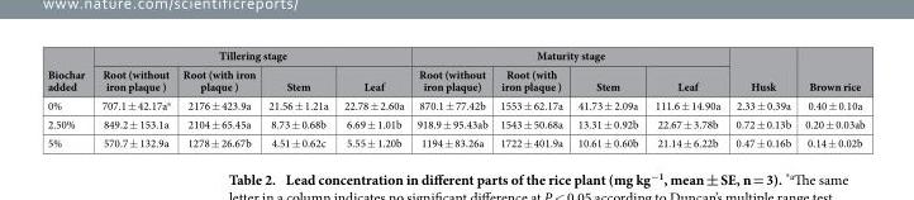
<table><thead><tr><td rowspan="2">Biochar added</td><td colspan="4">Tillering stage</td><td colspan="4">Maturity stage</td><td rowspan="2">Husk</td><td rowspan="2">Brown rice</td></tr><tr><td>Root (without iron plaque )</td><td>Root (with iron plaque )</td><td>Stem</td><td>Leaf</td><td>Root (without iron plaque)</td><td>Root (with iron plaque )</td><td>Stem</td><td>Leaf</td></tr></thead><tbody><tr><td>0%</td><td>707.1 ± 42.17a<sup>a</sup></td><td>2176 ± 423.9a</td><td>21.56 ± 1.21a</td><td>22.78 ± 2.60a</td><td>870.1 ± 77.42b</td><td>1553 ± 62.17a</td><td>41.73 ± 2.09a</td><td>111.6 ± 14.90a</td><td>2.33 ± 0.39a</td><td>0.40 ± 0.10a</td></tr><tr><td>2.50%</td><td>849.2 ± 153.1a</td><td>2104 ± 65.45a</td><td>8.73 ± 0.68b</td><td>6.69 ± 1.01b</td><td>918.9 ± 95.43ab</td><td>1543 ± 50.68a</td><td>13.31 ± 0.92b</td><td>22.67 ± 3.78b</td><td>0.72 ± 0.13b</td><td>0.20 ± 0.03ab</td></tr><tr><td>5%</td><td>570.7 ± 132.9a</td><td>1278 ± 26.67b</td><td>4.51 ± 0.62c</td><td>5.55 ± 1.20b</td><td>1194 ± 83.26a</td><td>1722 ± 401.9a</td><td>10.61 ± 0.60b</td><td>21.14 ± 6.22b</td><td>0.47 ± 0.16b</td><td>0.14 ± 0.02b</td></tr></tbody></table>